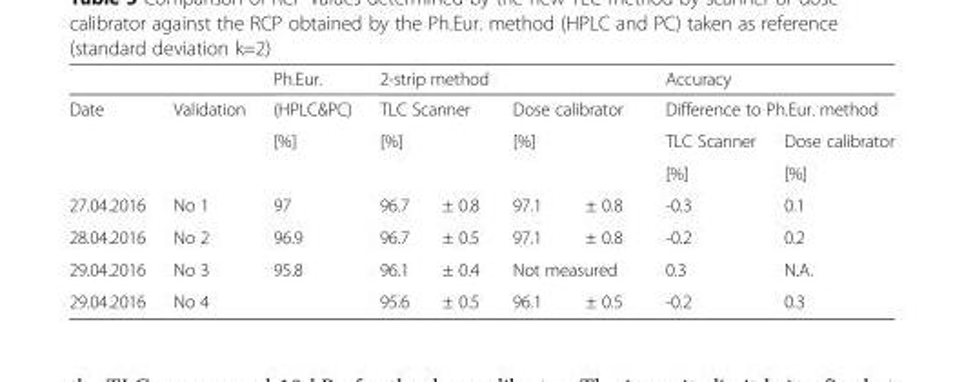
<table><thead><tr><td></td><td></td><td>Ph.Eur.</td><td colspan="4">2-strip method</td><td colspan="2">Accuracy</td></tr></thead><tbody><tr><td rowspan="3">Date</td><td>Validation</td><td>(HPLC&amp;PC)</td><td colspan="2">TLC Scanner</td><td colspan="2">Dose calibrator</td><td colspan="2">Difference to Ph.Eur. method</td></tr><tr><td></td><td>[%]</td><td colspan="2">[%]</td><td colspan="2">[%]</td><td>TLC Scanner</td><td>Dose calibrator</td></tr><tr><td></td><td></td><td colspan="2"></td><td colspan="2"></td><td>[%]</td><td>[%]</td></tr><tr><td>27.04.2016</td><td>No 1</td><td>97</td><td>96.7</td><td>± 0.8</td><td>97.1</td><td>± 0.8</td><td>-0.3</td><td>0.1</td></tr><tr><td>28.04.2016</td><td>No 2</td><td>96.9</td><td>96.7</td><td>± 0.5</td><td>97.1</td><td>± 0.8</td><td>-0.2</td><td>0.2</td></tr><tr><td>29.04.2016</td><td>No 3</td><td rowspan="2">95.8</td><td>96.1</td><td>± 0.4</td><td colspan="2">Not measured</td><td>0.3</td><td>N.A.</td></tr><tr><td>29.04.2016</td><td>No 4</td><td>95.6</td><td>± 0.5</td><td>96.1</td><td>± 0.5</td><td>-0.2</td><td>0.3</td></tr></tbody></table>